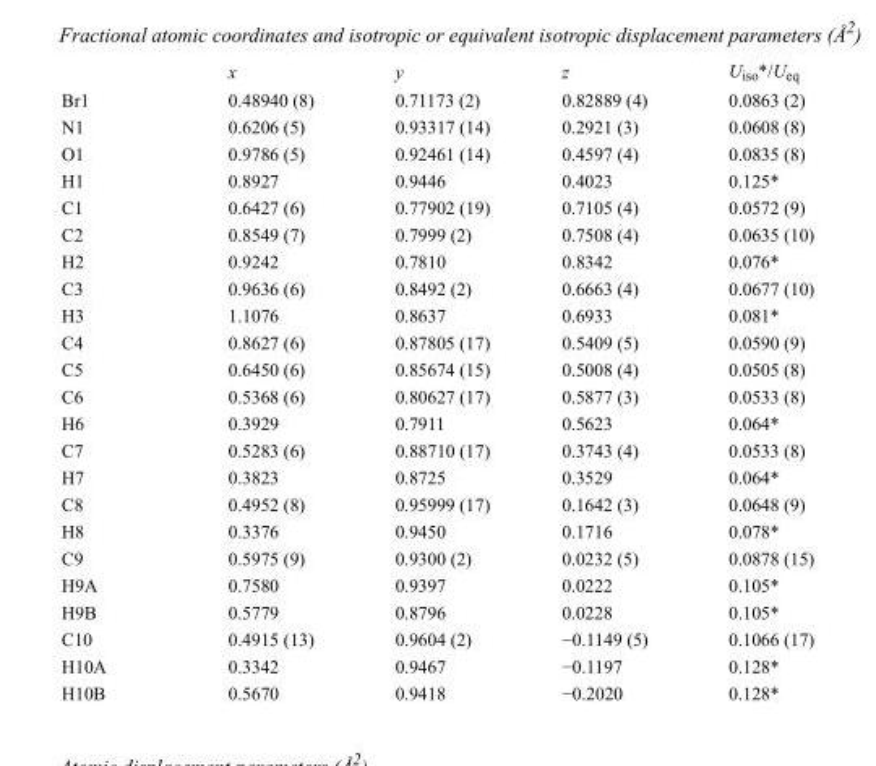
<table><thead><tr><td></td><td>x</td><td>y</td><td>z</td><td>U<sub>iso</sub>*/U<sub>eq</sub></td></tr></thead><tbody><tr><td>Br1</td><td>0.48940 (8)</td><td>0.71173 (2)</td><td>0.82889 (4)</td><td>0.0863 (2)</td></tr><tr><td>N1</td><td>0.6206 (5)</td><td>0.93317 (14)</td><td>0.2921 (3)</td><td>0.0608 (8)</td></tr><tr><td>O1</td><td>0.9786 (5)</td><td>0.92461 (14)</td><td>0.4597 (4)</td><td>0.0835 (8)</td></tr><tr><td>H1</td><td>0.8927</td><td>0.9446</td><td>0.4023</td><td>0.125*</td></tr><tr><td>C1</td><td>0.6427 (6)</td><td>0.77902 (19)</td><td>0.7105 (4)</td><td>0.0572 (9)</td></tr><tr><td>C2</td><td>0.8549 (7)</td><td>0.7999 (2)</td><td>0.7508 (4)</td><td>0.0635 (10)</td></tr><tr><td>H2</td><td>0.9242</td><td>0.7810</td><td>0.8342</td><td>0.076*</td></tr><tr><td>C3</td><td>0.9636 (6)</td><td>0.8492 (2)</td><td>0.6663 (4)</td><td>0.0677 (10)</td></tr><tr><td>H3</td><td>1.1076</td><td>0.8637</td><td>0.6933</td><td>0.081*</td></tr><tr><td>C4</td><td>0.8627 (6)</td><td>0.87805 (17)</td><td>0.5409 (5)</td><td>0.0590 (9)</td></tr><tr><td>C5</td><td>0.6450 (6)</td><td>0.85674 (15)</td><td>0.5008 (4)</td><td>0.0505 (8)</td></tr><tr><td>C6</td><td>0.5368 (6)</td><td>0.80627 (17)</td><td>0.5877 (3)</td><td>0.0533 (8)</td></tr><tr><td>H6</td><td>0.3929</td><td>0.7911</td><td>0.5623</td><td>0.064*</td></tr><tr><td>C7</td><td>0.5283 (6)</td><td>0.88710 (17)</td><td>0.3743 (4)</td><td>0.0533 (8)</td></tr><tr><td>H7</td><td>0.3823</td><td>0.8725</td><td>0.3529</td><td>0.064*</td></tr><tr><td>C8</td><td>0.4952 (8)</td><td>0.95999 (17)</td><td>0.1642 (3)</td><td>0.0648 (9)</td></tr><tr><td>H8</td><td>0.3376</td><td>0.9450</td><td>0.1716</td><td>0.078*</td></tr><tr><td>C9</td><td>0.5975 (9)</td><td>0.9300 (2)</td><td>0.0232 (5)</td><td>0.0878 (15)</td></tr><tr><td>H9A</td><td>0.7580</td><td>0.9397</td><td>0.0222</td><td>0.105*</td></tr><tr><td>H9B</td><td>0.5779</td><td>0.8796</td><td>0.0228</td><td>0.105*</td></tr><tr><td>C10</td><td>0.4915 (13)</td><td>0.9604 (2)</td><td>−0.1149 (5)</td><td>0.1066 (17)</td></tr><tr><td>H10A</td><td>0.3342</td><td>0.9467</td><td>−0.1197</td><td>0.128*</td></tr><tr><td>H10B</td><td>0.5670</td><td>0.9418</td><td>−0.2020</td><td>0.128*</td></tr></tbody></table>